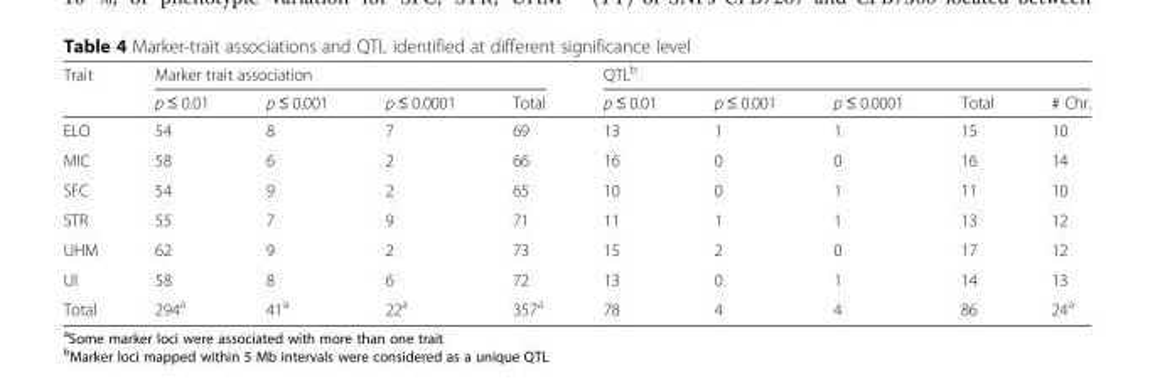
<table><thead><tr><td rowspan="2">Trait</td><td colspan="4">Marker trait association</td><td colspan="5">QTL<sup>b</sup></td></tr><tr><td>p ≤ 0.01</td><td>p ≤ 0.001</td><td>p ≤ 0.0001</td><td>Total</td><td>p ≤ 0.01</td><td>p ≤ 0.001</td><td>p ≤ 0.0001</td><td>Total</td><td># Chr.</td></tr></thead><tbody><tr><td>ELO</td><td>54</td><td>8</td><td>7</td><td>69</td><td>13</td><td>1</td><td>1</td><td>15</td><td>10</td></tr><tr><td>MIC</td><td>58</td><td>6</td><td>2</td><td>66</td><td>16</td><td>0</td><td>0</td><td>16</td><td>14</td></tr><tr><td>SFC</td><td>54</td><td>9</td><td>2</td><td>65</td><td>10</td><td>0</td><td>1</td><td>11</td><td>10</td></tr><tr><td>STR</td><td>55</td><td>7</td><td>9</td><td>71</td><td>11</td><td>1</td><td>1</td><td>13</td><td>12</td></tr><tr><td>UHM</td><td>62</td><td>9</td><td>2</td><td>73</td><td>15</td><td>2</td><td>0</td><td>17</td><td>12</td></tr><tr><td>UI</td><td>58</td><td>8</td><td>6</td><td>72</td><td>13</td><td>0</td><td>1</td><td>14</td><td>13</td></tr><tr><td>Total</td><td>294<sup>a</sup></td><td>41<sup>a</sup></td><td>22<sup>a</sup></td><td>357<sup>a</sup></td><td>78</td><td>4</td><td>4</td><td>86</td><td>24<sup>a</sup></td></tr></tbody></table>